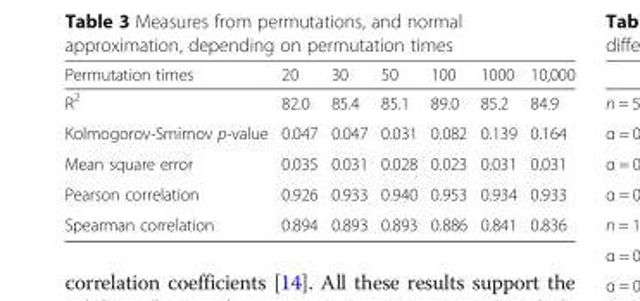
<table><thead><tr><td>Permutation times</td><td>20</td><td>30</td><td>50</td><td>100</td><td>1000</td><td>10,000</td></tr></thead><tbody><tr><td>R<sup>2</sup></td><td>82.0</td><td>85.4</td><td>85.1</td><td>89.0</td><td>85.2</td><td>84.9</td></tr><tr><td>Kolmogorov-Smirnov p-value</td><td>0.047</td><td>0.047</td><td>0.031</td><td>0.082</td><td>0.139</td><td>0.164</td></tr><tr><td>Mean square error</td><td>0.035</td><td>0.031</td><td>0.028</td><td>0.023</td><td>0.031</td><td>0.031</td></tr><tr><td>Pearson correlation</td><td>0.926</td><td>0.933</td><td>0.940</td><td>0.953</td><td>0.934</td><td>0.933</td></tr><tr><td>Spearman correlation</td><td>0.894</td><td>0.893</td><td>0.893</td><td>0.886</td><td>0.841</td><td>0.836</td></tr></tbody></table>